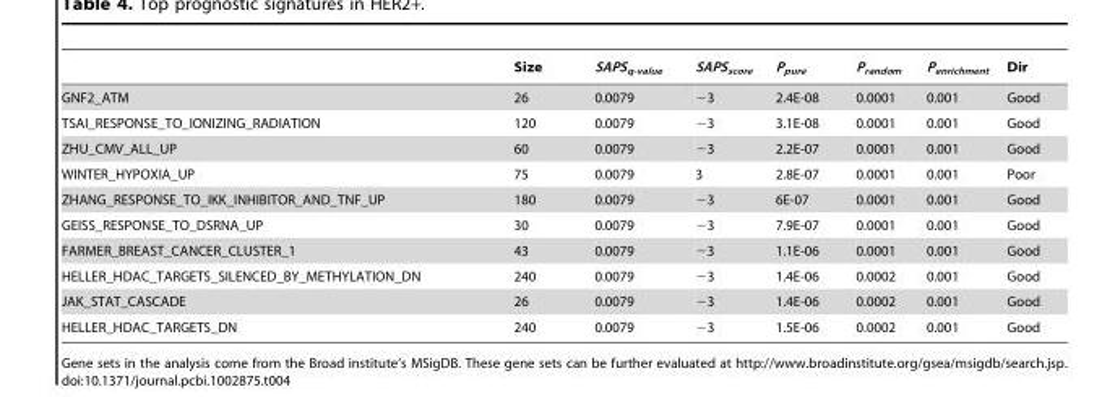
<table><thead><tr><td></td><td>Size</td><td>SAPS<sub>q-value</sub></td><td>SAPS<sub>score</sub></td><td>P<sub>pure</sub></td><td>P<sub>random</sub></td><td>P<sub>enrichment</sub></td><td>Dir</td></tr></thead><tbody><tr><td>GNF2_ATM</td><td>26</td><td>0.0079</td><td>−3</td><td>2.4E-08</td><td>0.0001</td><td>0.001</td><td>Good</td></tr><tr><td>TSAI_RESPONSE_TO_IONIZING_RADIATION</td><td>120</td><td>0.0079</td><td>−3</td><td>3.1E-08</td><td>0.0001</td><td>0.001</td><td>Good</td></tr><tr><td>ZHU_CMV_ALL_UP</td><td>60</td><td>0.0079</td><td>−3</td><td>2.2E-07</td><td>0.0001</td><td>0.001</td><td>Good</td></tr><tr><td>WINTER_HYPOXIA_UP</td><td>75</td><td>0.0079</td><td>3</td><td>2.8E-07</td><td>0.0001</td><td>0.001</td><td>Poor</td></tr><tr><td>ZHANG_RESPONSE_TO_IKK_INHIBITOR_AND_TNF_UP</td><td>180</td><td>0.0079</td><td>−3</td><td>6E-07</td><td>0.0001</td><td>0.001</td><td>Good</td></tr><tr><td>GEISS_RESPONSE_TO_DSRNA_UP</td><td>30</td><td>0.0079</td><td>−3</td><td>7.9E-07</td><td>0.0001</td><td>0.001</td><td>Good</td></tr><tr><td>FARMER_BREAST_CANCER_CLUSTER_1</td><td>43</td><td>0.0079</td><td>−3</td><td>1.1E-06</td><td>0.0001</td><td>0.001</td><td>Good</td></tr><tr><td>HELLER_HDAC_TARGETS_SILENCED_BY_METHYLATION_DN</td><td>240</td><td>0.0079</td><td>−3</td><td>1.4E-06</td><td>0.0002</td><td>0.001</td><td>Good</td></tr><tr><td>JAK_STAT_CASCADE</td><td>26</td><td>0.0079</td><td>−3</td><td>1.4E-06</td><td>0.0002</td><td>0.001</td><td>Good</td></tr><tr><td>HELLER_HDAC_TARGETS_DN</td><td>240</td><td>0.0079</td><td>−3</td><td>1.5E-06</td><td>0.0002</td><td>0.001</td><td>Good</td></tr></tbody></table>